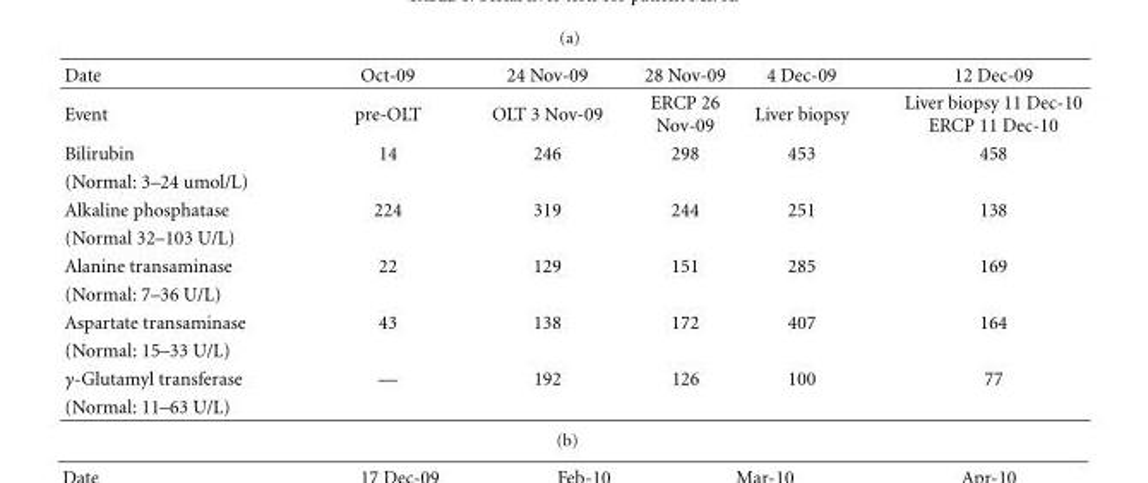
<table><thead><tr><td>Date</td><td>Oct-09</td><td>24 Nov-09</td><td>28 Nov-09</td><td>4 Dec-09</td><td>12 Dec-09</td></tr></thead><tbody><tr><td>Event</td><td>pre-OLT</td><td>OLT 3 Nov-09</td><td>ERCP 26 Nov-09</td><td>Liver biopsy</td><td>Liver biopsy 11 Dec-10 ERCP 11 Dec-10</td></tr><tr><td>Bilirubin</td><td>14</td><td>246</td><td>298</td><td>453</td><td>458</td></tr><tr><td colspan="6">(Normal: 3–24 umol/L)</td></tr><tr><td>Alkaline phosphatase</td><td>224</td><td>319</td><td>244</td><td>251</td><td>138</td></tr><tr><td colspan="6">(Normal 32–103 U/L)</td></tr><tr><td>Alanine transaminase</td><td>22</td><td>129</td><td>151</td><td>285</td><td>169</td></tr><tr><td colspan="6">(Normal: 7–36 U/L)</td></tr><tr><td>Aspartate transaminase</td><td>43</td><td>138</td><td>172</td><td>407</td><td>164</td></tr><tr><td colspan="6">(Normal: 15–33 U/L)</td></tr><tr><td>γ-Glutamyl transferase</td><td>—</td><td>192</td><td>126</td><td>100</td><td>77</td></tr><tr><td>(Normal: 11–63 U/L)</td><td></td><td></td><td></td><td></td><td></td></tr></tbody></table>